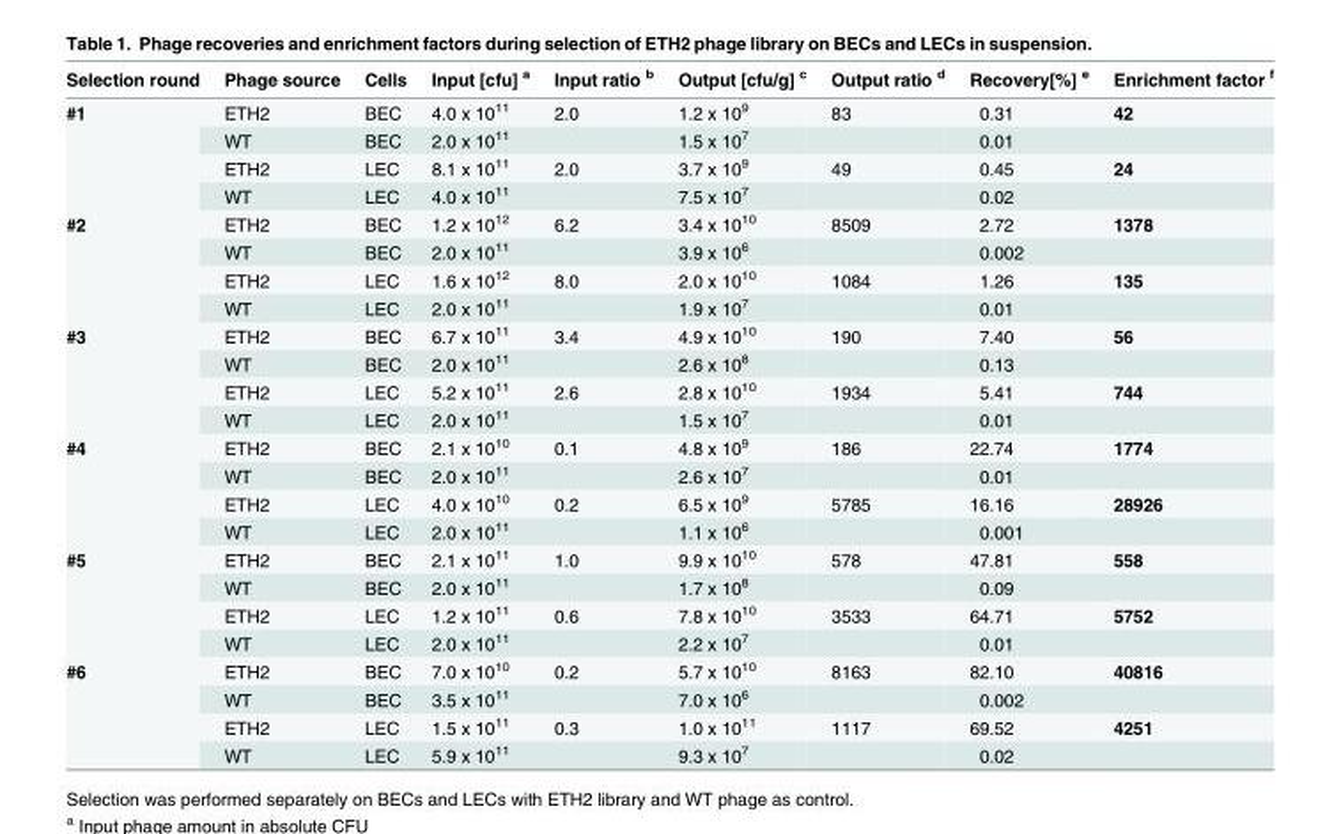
<table><thead><tr><td>Selection round</td><td>Phage source</td><td>Cells</td><td>Input [cfu] <sup>a</sup></td><td>Input ratio <sup>b</sup></td><td>Output [cfu/g] <sup>c</sup></td><td>Output ratio <sup>d</sup></td><td>Recovery[%] <sup>e</sup></td><td>Enrichment factor <sup>f</sup></td></tr></thead><tbody><tr><td rowspan="4">#1</td><td>ETH2</td><td>BEC</td><td>4.0 x 10<sup>11</sup></td><td>2.0</td><td>1.2 x 10<sup>9</sup></td><td>83</td><td>0.31</td><td>42</td></tr><tr><td>WT</td><td>BEC</td><td>2.0 x 10<sup>11</sup></td><td></td><td>1.5 x 10<sup>7</sup></td><td></td><td>0.01</td><td></td></tr><tr><td>ETH2</td><td>LEC</td><td>8.1 x 10<sup>11</sup></td><td>2.0</td><td>3.7 x 10<sup>9</sup></td><td>49</td><td>0.45</td><td>24</td></tr><tr><td>WT</td><td>LEC</td><td>4.0 x 10<sup>11</sup></td><td></td><td>7.5 x 10<sup>7</sup></td><td></td><td>0.02</td><td></td></tr><tr><td rowspan="4">#2</td><td>ETH2</td><td>BEC</td><td>1.2 x 10<sup>12</sup></td><td>6.2</td><td>3.4 x 10<sup>10</sup></td><td>8509</td><td>2.72</td><td>1378</td></tr><tr><td>WT</td><td>BEC</td><td>2.0 x 10<sup>11</sup></td><td></td><td>3.9 x 10<sup>6</sup></td><td></td><td>0.002</td><td></td></tr><tr><td>ETH2</td><td>LEC</td><td>1.6 x 10<sup>12</sup></td><td>8.0</td><td>2.0 x 10<sup>10</sup></td><td>1084</td><td>1.26</td><td>135</td></tr><tr><td>WT</td><td>LEC</td><td>2.0 x 10<sup>11</sup></td><td></td><td>1.9 x 10<sup>7</sup></td><td></td><td>0.01</td><td></td></tr><tr><td rowspan="4">#3</td><td>ETH2</td><td>BEC</td><td>6.7 x 10<sup>11</sup></td><td>3.4</td><td>4.9 x 10<sup>10</sup></td><td>190</td><td>7.40</td><td>56</td></tr><tr><td>WT</td><td>BEC</td><td>2.0 x 10<sup>11</sup></td><td></td><td>2.6 x 10<sup>8</sup></td><td></td><td>0.13</td><td></td></tr><tr><td>ETH2</td><td>LEC</td><td>5.2 x 10<sup>11</sup></td><td>2.6</td><td>2.8 x 10<sup>10</sup></td><td>1934</td><td>5.41</td><td>744</td></tr><tr><td>WT</td><td>LEC</td><td>2.0 x 10<sup>11</sup></td><td></td><td>1.5 x 10<sup>7</sup></td><td></td><td>0.01</td><td></td></tr><tr><td rowspan="4">#4</td><td>ETH2</td><td>BEC</td><td>2.1 x 10<sup>10</sup></td><td>0.1</td><td>4.8 x 10<sup>9</sup></td><td>186</td><td>22.74</td><td>1774</td></tr><tr><td>WT</td><td>BEC</td><td>2.0 x 10<sup>11</sup></td><td></td><td>2.6 x 10<sup>7</sup></td><td></td><td>0.01</td><td></td></tr><tr><td>ETH2</td><td>LEC</td><td>4.0 x 10<sup>10</sup></td><td>0.2</td><td>6.5 x 10<sup>9</sup></td><td>5785</td><td>16.16</td><td>28926</td></tr><tr><td>WT</td><td>LEC</td><td>2.0 x 10<sup>11</sup></td><td></td><td>1.1 x 10<sup>6</sup></td><td></td><td>0.001</td><td></td></tr><tr><td rowspan="4">#5</td><td>ETH2</td><td>BEC</td><td>2.1 x 10<sup>11</sup></td><td>1.0</td><td>9.9 x 10<sup>10</sup></td><td>578</td><td>47.81</td><td>558</td></tr><tr><td>WT</td><td>BEC</td><td>2.0 x 10<sup>11</sup></td><td></td><td>1.7 x 10<sup>8</sup></td><td></td><td>0.09</td><td></td></tr><tr><td>ETH2</td><td>LEC</td><td>1.2 x 10<sup>11</sup></td><td>0.6</td><td>7.8 x 10<sup>10</sup></td><td>3533</td><td>64.71</td><td>5752</td></tr><tr><td>WT</td><td>LEC</td><td>2.0 x 10<sup>11</sup></td><td></td><td>2.2 x 10<sup>7</sup></td><td></td><td>0.01</td><td></td></tr><tr><td rowspan="4">#6</td><td>ETH2</td><td>BEC</td><td>7.0 x 10<sup>10</sup></td><td>0.2</td><td>5.7 x 10<sup>10</sup></td><td>8163</td><td>82.10</td><td>40816</td></tr><tr><td>WT</td><td>BEC</td><td>3.5 x 10<sup>11</sup></td><td></td><td>7.0 x 10<sup>6</sup></td><td></td><td>0.002</td><td></td></tr><tr><td>ETH2</td><td>LEC</td><td>1.5 x 10<sup>11</sup></td><td>0.3</td><td>1.0 x 10<sup>11</sup></td><td>1117</td><td>69.52</td><td>4251</td></tr><tr><td>WT</td><td>LEC</td><td>5.9 x 10<sup>11</sup></td><td></td><td>9.3 x 10<sup>7</sup></td><td></td><td>0.02</td><td></td></tr></tbody></table>